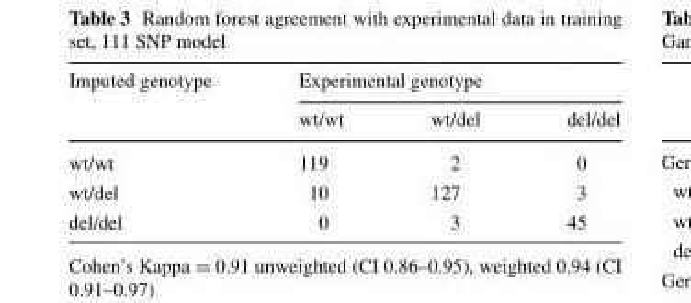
<table><thead><tr><td rowspan="2">Imputed genotype</td><td colspan="3">Experimental genotype</td></tr><tr><td>wt/wt</td><td>wt/del</td><td>del/del</td></tr></thead><tbody><tr><td>wt/wt</td><td>119</td><td>2</td><td>0</td></tr><tr><td>wt/del</td><td>10</td><td>127</td><td>3</td></tr><tr><td>del/del</td><td>0</td><td>3</td><td>45</td></tr></tbody></table>